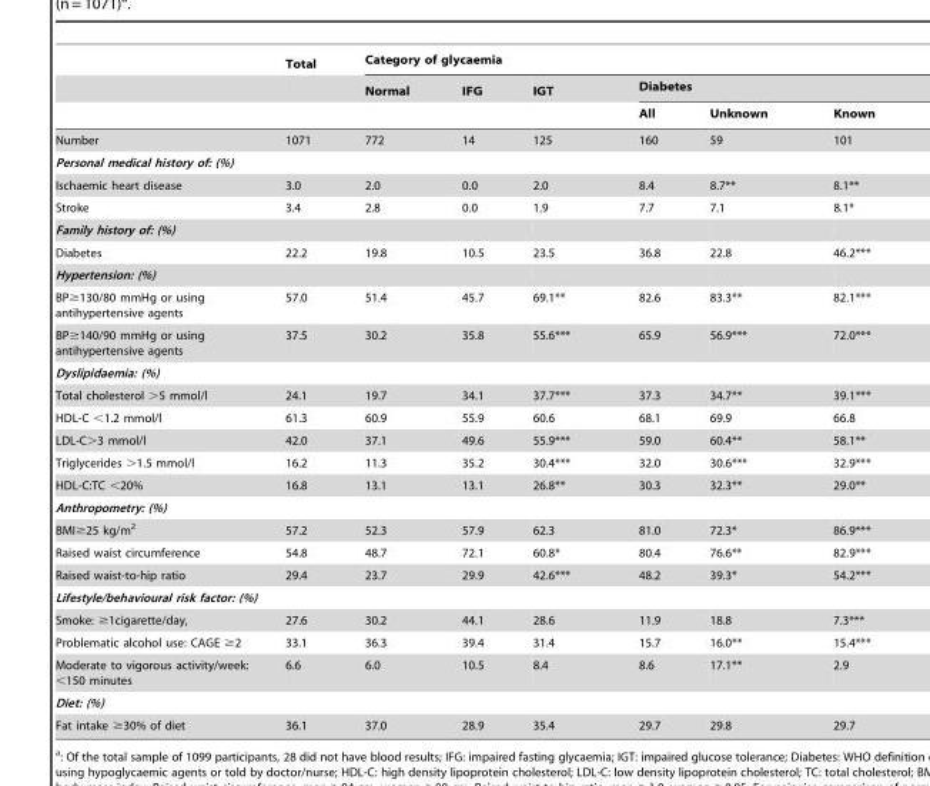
<table><thead><tr><td rowspan="3"></td><td rowspan="3">Total</td><td colspan="6">Category of glycaemia</td></tr><tr><td rowspan="2">Normal</td><td rowspan="2">IFG</td><td rowspan="2">IGT</td><td colspan="3">Diabetes</td></tr><tr><td>All</td><td>Unknown</td><td>Known</td></tr></thead><tbody><tr><td>Number</td><td>1071</td><td>772</td><td>14</td><td>125</td><td>160</td><td>59</td><td>101</td></tr><tr><td colspan="8">Personal medical history of: (%)</td></tr><tr><td>Ischaemic heart disease</td><td>3.0</td><td>2.0</td><td>0.0</td><td>2.0</td><td>8.4</td><td>8.7**</td><td>8.1**</td></tr><tr><td>Stroke</td><td>3.4</td><td>2.8</td><td>0.0</td><td>1.9</td><td>7.7</td><td>7.1</td><td>8.1*</td></tr><tr><td colspan="8">Family history of: (%)</td></tr><tr><td>Diabetes</td><td>22.2</td><td>19.8</td><td>10.5</td><td>23.5</td><td>36.8</td><td>22.8</td><td>46.2***</td></tr><tr><td colspan="8">Hypertension: (%)</td></tr><tr><td>BP≥130/80 mmHg or using antihypertensive agents</td><td>57.0</td><td>51.4</td><td>45.7</td><td>69.1**</td><td>82.6</td><td>83.3**</td><td>82.1***</td></tr><tr><td>BP≥140/90 mmHg or using antihypertensive agents</td><td>37.5</td><td>30.2</td><td>35.8</td><td>55.6***</td><td>65.9</td><td>56.9***</td><td>72.0***</td></tr><tr><td colspan="8">Dyslipidaemia: (%)</td></tr><tr><td>Total cholesterol &gt;5 mmol/l</td><td>24.1</td><td>19.7</td><td>34.1</td><td>37.7***</td><td>37.3</td><td>34.7**</td><td>39.1***</td></tr><tr><td>HDL-C &lt;1.2 mmol/l</td><td>61.3</td><td>60.9</td><td>55.9</td><td>60.6</td><td>68.1</td><td>69.9</td><td>66.8</td></tr><tr><td>LDL-C&gt;3 mmol/l</td><td>42.0</td><td>37.1</td><td>49.6</td><td>55.9***</td><td>59.0</td><td>60.4**</td><td>58.1**</td></tr><tr><td>Triglycerides &gt;1.5 mmol/l</td><td>16.2</td><td>11.3</td><td>35.2</td><td>30.4***</td><td>32.0</td><td>30.6***</td><td>32.9***</td></tr><tr><td>HDL-C:TC &lt;20%</td><td>16.8</td><td>13.1</td><td>13.1</td><td>26.8**</td><td>30.3</td><td>32.3**</td><td>29.0**</td></tr><tr><td colspan="8">Anthropometry: (%)</td></tr><tr><td>BMI≥25 kg/m<sup>2</sup></td><td>57.2</td><td>52.3</td><td>57.9</td><td>62.3</td><td>81.0</td><td>72.3*</td><td>86.9***</td></tr><tr><td>Raised waist circumference</td><td>54.8</td><td>48.7</td><td>72.1</td><td>60.8*</td><td>80.4</td><td>76.6**</td><td>82.9***</td></tr><tr><td>Raised waist-to-hip ratio</td><td>29.4</td><td>23.7</td><td>29.9</td><td>42.6***</td><td>48.2</td><td>39.3*</td><td>54.2***</td></tr><tr><td colspan="8">Lifestyle/behavioural risk factor: (%)</td></tr><tr><td>Smoke: ≥1cigarette/day,</td><td>27.6</td><td>30.2</td><td>44.1</td><td>28.6</td><td>11.9</td><td>18.8</td><td>7.3***</td></tr><tr><td>Problematic alcohol use: CAGE ≥2</td><td>33.1</td><td>36.3</td><td>39.4</td><td>31.4</td><td>15.7</td><td>16.0**</td><td>15.4***</td></tr><tr><td>Moderate to vigorous activity/week: &lt;150 minutes</td><td>6.6</td><td>6.0</td><td>10.5</td><td>8.4</td><td>8.6</td><td>17.1**</td><td>2.9</td></tr><tr><td colspan="8">Diet: (%)</td></tr><tr><td>Fat intake ≥30% of diet</td><td>36.1</td><td>37.0</td><td>28.9</td><td>35.4</td><td>29.7</td><td>29.8</td><td>29.7</td></tr></tbody></table>